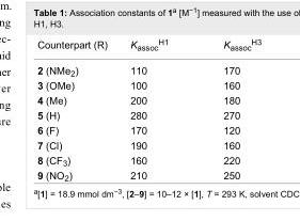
<table><tbody><tr><td>Counterpart (R)</td><td>K<sub>assoc</sub><sup>H1</sup></td><td>K<sub>assoc</sub><sup>H3</sup></td></tr><tr><td>2 (NMe<sub>2</sub>)</td><td>110</td><td>170</td></tr><tr><td>3 (OMe)</td><td>100</td><td>160</td></tr><tr><td>4 (Me)</td><td>200</td><td>180</td></tr><tr><td>5 (H)</td><td>280</td><td>270</td></tr><tr><td>6 (F)</td><td>170</td><td>120</td></tr><tr><td>7 (Cl)</td><td>190</td><td>160</td></tr><tr><td>8 (CF<sub>3</sub>)</td><td>160</td><td>220</td></tr><tr><td>9 (NO<sub>2</sub>)</td><td>210</td><td>250</td></tr></tbody></table>